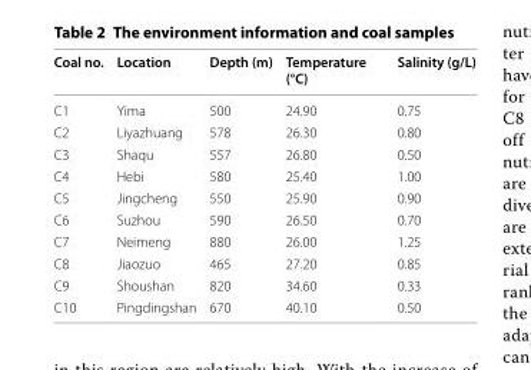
<table><thead><tr><td>Coal no.</td><td>Location</td><td>Depth (m)</td><td>Temperature (°C)</td><td>Salinity (g/L)</td></tr></thead><tbody><tr><td>C1</td><td>Yima</td><td>500</td><td>24.90</td><td>0.75</td></tr><tr><td>C2</td><td>Liyazhuang</td><td>578</td><td>26.30</td><td>0.80</td></tr><tr><td>C3</td><td>Shaqu</td><td>557</td><td>26.80</td><td>0.50</td></tr><tr><td>C4</td><td>Hebi</td><td>580</td><td>25.40</td><td>1.00</td></tr><tr><td>C5</td><td>Jingcheng</td><td>550</td><td>25.90</td><td>0.90</td></tr><tr><td>C6</td><td>Suzhou</td><td>590</td><td>26.50</td><td>0.70</td></tr><tr><td>C7</td><td>Neimeng</td><td>880</td><td>26.00</td><td>1.25</td></tr><tr><td>C8</td><td>Jiaozuo</td><td>465</td><td>27.20</td><td>0.85</td></tr><tr><td>C9</td><td>Shoushan</td><td>820</td><td>34.60</td><td>0.33</td></tr><tr><td>C10</td><td>Pingdingshan</td><td>670</td><td>40.10</td><td>0.50</td></tr></tbody></table>